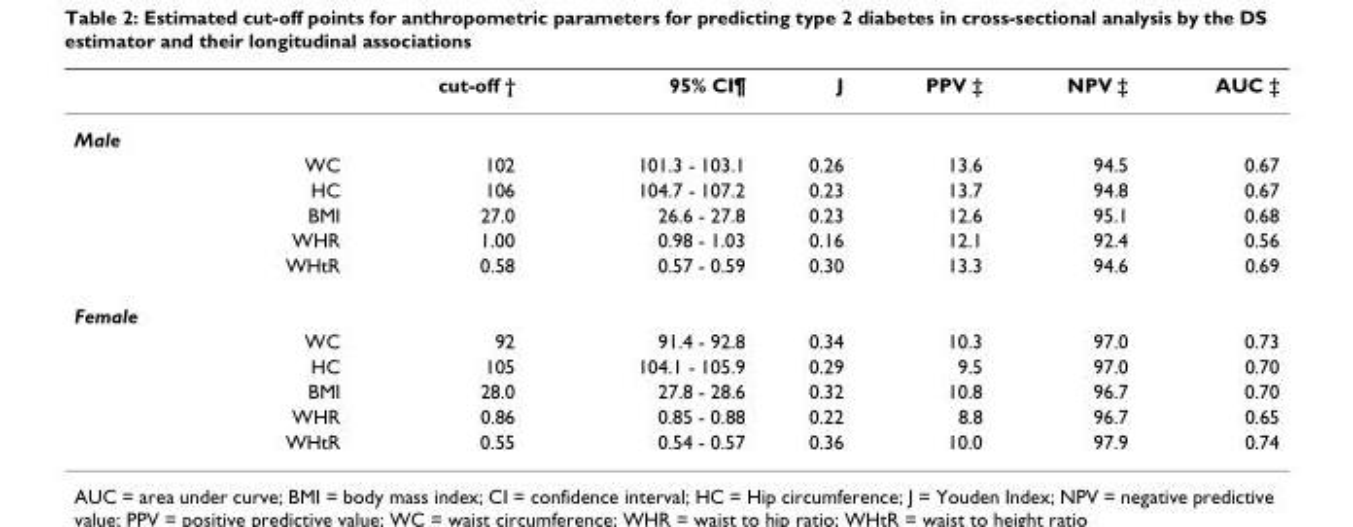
<table><thead><tr><td></td><td></td><td>cut-off †</td><td>95% CI¶</td><td>J</td><td>PPV ‡</td><td>NPV ‡</td><td>AUC ‡</td></tr></thead><tbody><tr><td colspan="8">Male</td></tr><tr><td></td><td>WC</td><td>102</td><td>101.3 - 103.1</td><td>0.26</td><td>13.6</td><td>94.5</td><td>0.67</td></tr><tr><td></td><td>HC</td><td>106</td><td>104.7 - 107.2</td><td>0.23</td><td>13.7</td><td>94.8</td><td>0.67</td></tr><tr><td></td><td>BMI</td><td>27.0</td><td>26.6 - 27.8</td><td>0.23</td><td>12.6</td><td>95.1</td><td>0.68</td></tr><tr><td></td><td>WHR</td><td>1.00</td><td>0.98 - 1.03</td><td>0.16</td><td>12.1</td><td>92.4</td><td>0.56</td></tr><tr><td></td><td>WHtR</td><td>0.58</td><td>0.57 - 0.59</td><td>0.30</td><td>13.3</td><td>94.6</td><td>0.69</td></tr><tr><td colspan="8">Female</td></tr><tr><td></td><td>WC</td><td>92</td><td>91.4 - 92.8</td><td>0.34</td><td>10.3</td><td>97.0</td><td>0.73</td></tr><tr><td></td><td>HC</td><td>105</td><td>104.1 - 105.9</td><td>0.29</td><td>9.5</td><td>97.0</td><td>0.70</td></tr><tr><td></td><td>BMI</td><td>28.0</td><td>27.8 - 28.6</td><td>0.32</td><td>10.8</td><td>96.7</td><td>0.70</td></tr><tr><td></td><td>WHR</td><td>0.86</td><td>0.85 - 0.88</td><td>0.22</td><td>8.8</td><td>96.7</td><td>0.65</td></tr><tr><td></td><td>WHtR</td><td>0.55</td><td>0.54 - 0.57</td><td>0.36</td><td>10.0</td><td>97.9</td><td>0.74</td></tr></tbody></table>